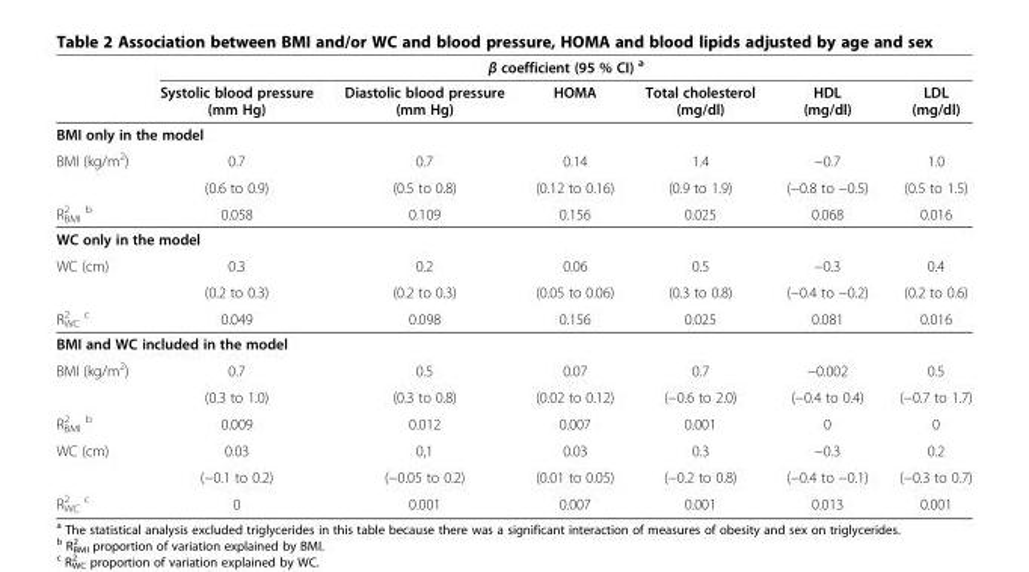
<table><thead><tr><td rowspan="2"></td><td colspan="6">β coefficient (95 % CI) <sup>a</sup></td></tr><tr><td>Systolic blood pressure (mm Hg)</td><td>Diastolic blood pressure (mm Hg)</td><td>HOMA</td><td>Total cholesterol (mg/dl)</td><td>HDL (mg/dl)</td><td>LDL (mg/dl)</td></tr></thead><tbody><tr><td colspan="7">BMI only in the model</td></tr><tr><td rowspan="2">BMI (kg/m<sup>2</sup>)</td><td>0.7</td><td>0.7</td><td>0.14</td><td>1.4</td><td>−0.7</td><td>1.0</td></tr><tr><td>(0.6 to 0.9)</td><td>(0.5 to 0.8)</td><td>(0.12 to 0.16)</td><td>(0.9 to 1.9)</td><td>(−0.8 to −0.5)</td><td>(0.5 to 1.5)</td></tr><tr><td>R<sub>BMI</sub> <sup>2 b</sup></td><td>0.058</td><td>0.109</td><td>0.156</td><td>0.025</td><td>0.068</td><td>0.016</td></tr><tr><td colspan="7">WC only in the model</td></tr><tr><td rowspan="2">WC (cm)</td><td>0.3</td><td>0.2</td><td>0.06</td><td>0.5</td><td>−0.3</td><td>0.4</td></tr><tr><td>(0.2 to 0.3)</td><td>(0.2 to 0.3)</td><td>(0.05 to 0.06)</td><td>(0.3 to 0.8)</td><td>(−0.4 to −0.2)</td><td>(0.2 to 0.6)</td></tr><tr><td>R<sub>WC</sub> <sup>2 c</sup></td><td>0.049</td><td>0.098</td><td>0.156</td><td>0.025</td><td>0.081</td><td>0.016</td></tr><tr><td colspan="7">BMI and WC included in the model</td></tr><tr><td rowspan="2">BMI (kg/m<sup>2</sup>)</td><td>0.7</td><td>0.5</td><td>0.07</td><td>0.7</td><td>−0.002</td><td>0.5</td></tr><tr><td>(0.3 to 1.0)</td><td>(0.3 to 0.8)</td><td>(0.02 to 0.12)</td><td>(−0.6 to 2.0)</td><td>(−0.4 to 0.4)</td><td>(−0.7 to 1.7)</td></tr><tr><td>R<sub>BMI</sub> <sup>2 b</sup></td><td>0.009</td><td>0.012</td><td>0.007</td><td>0.001</td><td>0</td><td>0</td></tr><tr><td rowspan="2">WC (cm)</td><td>0.03</td><td>0,1</td><td>0.03</td><td>0.3</td><td>−0.3</td><td>0.2</td></tr><tr><td>(−0.1 to 0.2)</td><td>(−0.05 to 0.2)</td><td>(0.01 to 0.05)</td><td>(−0.2 to 0.8)</td><td>(−0.4 to −0.1)</td><td>(−0.3 to 0.7)</td></tr><tr><td>R<sub>WC</sub> <sup>2 c</sup></td><td>0</td><td>0.001</td><td>0.007</td><td>0.001</td><td>0.013</td><td>0.001</td></tr></tbody></table>